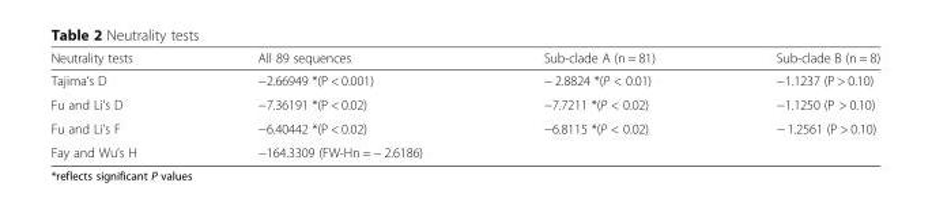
<table><thead><tr><td>Neutrality tests</td><td>All 89 sequences</td><td>Sub-clade A (n = 81)</td><td>Sub-clade B (n = 8)</td></tr></thead><tbody><tr><td>Tajima’s D</td><td>−2.66949 *(P &lt; 0.001)</td><td>− 2.8824 *(P &lt; 0.01)</td><td>−1.1237 (P &gt; 0.10)</td></tr><tr><td>Fu and Li’s D</td><td>−7.36191 *(P &lt; 0.02)</td><td>−7.7211 *(P &lt; 0.02)</td><td>−1.1250 (P &gt; 0.10)</td></tr><tr><td>Fu and Li’s F</td><td>−6.40442 *(P &lt; 0.02)</td><td>−6.8115 *(P &lt; 0.02)</td><td>− 1.2561 (P &gt; 0.10)</td></tr><tr><td>Fay and Wu’s H</td><td>−164.3309 (FW-Hn = − 2.6186)</td><td></td><td></td></tr></tbody></table>